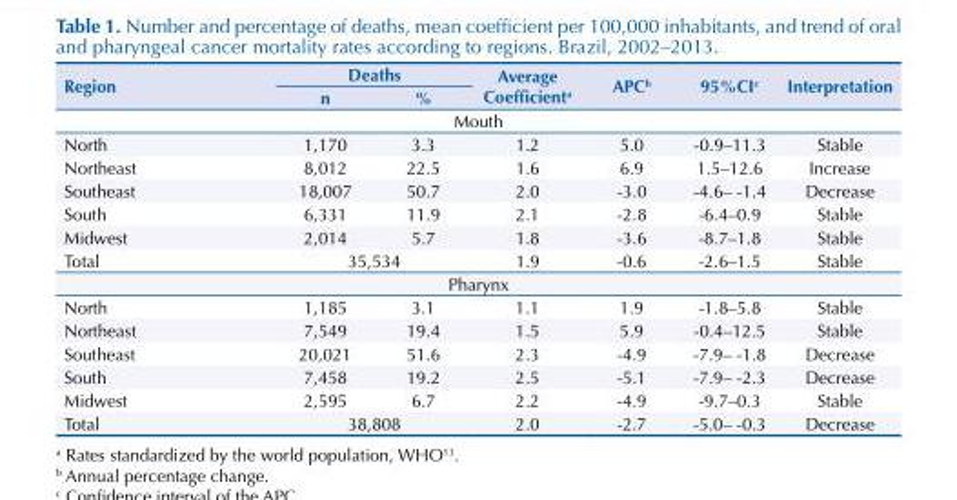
<table><thead><tr><td rowspan="2">Region</td><td colspan="2">Deaths</td><td rowspan="2">Average Coefficient<sup>a</sup></td><td rowspan="2">APC<sup>b</sup></td><td rowspan="2">95%CI<sup>c</sup></td><td rowspan="2">Interpretation</td></tr><tr><td>n</td><td>%</td></tr></thead><tbody><tr><td colspan="7">Mouth</td></tr><tr><td>North</td><td>1,170</td><td>3.3</td><td>1.2</td><td>5.0</td><td>-0.9–11.3</td><td>Stable</td></tr><tr><td>Northeast</td><td>8,012</td><td>22.5</td><td>1.6</td><td>6.9</td><td>1.5–12.6</td><td>Increase</td></tr><tr><td>Southeast</td><td>18,007</td><td>50.7</td><td>2.0</td><td>-3.0</td><td>-4.6– -1.4</td><td>Decrease</td></tr><tr><td>South</td><td>6,331</td><td>11.9</td><td>2.1</td><td>-2.8</td><td>-6.4–0.9</td><td>Stable</td></tr><tr><td>Midwest</td><td>2,014</td><td>5.7</td><td>1.8</td><td>-3.6</td><td>-8.7–1.8</td><td>Stable</td></tr><tr><td>Total</td><td colspan="2">35,534</td><td>1.9</td><td>-0.6</td><td>-2.6–1.5</td><td>Stable</td></tr><tr><td colspan="7">Pharynx</td></tr><tr><td>North</td><td>1,185</td><td>3.1</td><td>1.1</td><td>1.9</td><td>-1.8–5.8</td><td>Stable</td></tr><tr><td>Northeast</td><td>7,549</td><td>19.4</td><td>1.5</td><td>5.9</td><td>-0.4–12.5</td><td>Stable</td></tr><tr><td>Southeast</td><td>20,021</td><td>51.6</td><td>2.3</td><td>-4.9</td><td>-7.9– -1.8</td><td>Decrease</td></tr><tr><td>South</td><td>7,458</td><td>19.2</td><td>2.5</td><td>-5.1</td><td>-7.9– -2.3</td><td>Decrease</td></tr><tr><td>Midwest</td><td>2,595</td><td>6.7</td><td>2.2</td><td>-4.9</td><td>-9.7–0.3</td><td>Stable</td></tr><tr><td>Total</td><td colspan="2">38,808</td><td>2.0</td><td>-2.7</td><td>-5.0– -0.3</td><td>Decrease</td></tr></tbody></table>